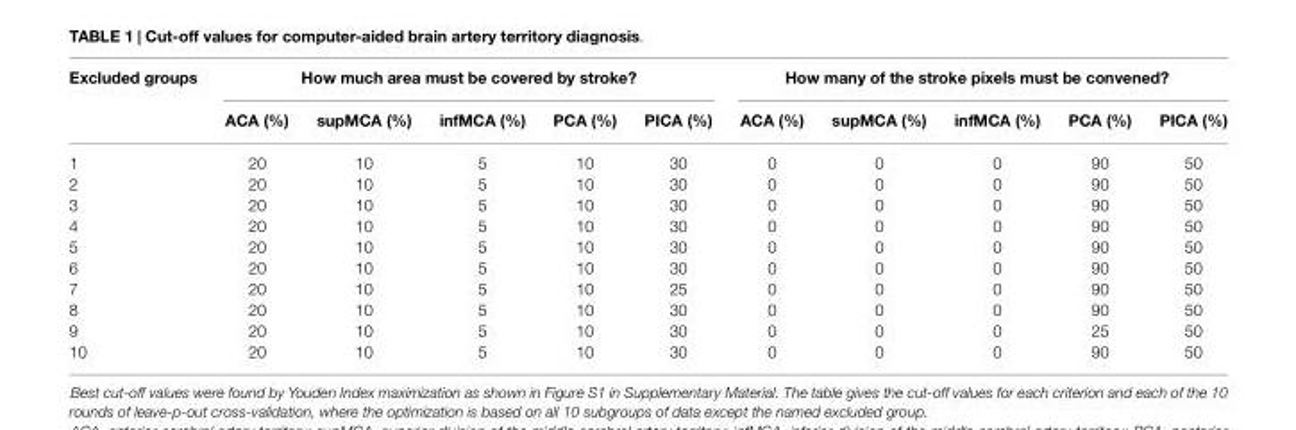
<table><thead><tr><td rowspan="2">Excluded groups</td><td colspan="5">How much area must be covered by stroke?</td><td colspan="5">How many of the stroke pixels must be convened?</td></tr><tr><td>ACA (%)</td><td>supMCA (%)</td><td>infMCA (%)</td><td>PCA (%)</td><td>PICA (%)</td><td>ACA (%)</td><td>supMCA (%)</td><td>infMCA (%)</td><td>PCA (%)</td><td>PICA (%)</td></tr></thead><tbody><tr><td>1</td><td>20</td><td>10</td><td>5</td><td>10</td><td>30</td><td>0</td><td>0</td><td>0</td><td>90</td><td>50</td></tr><tr><td>2</td><td>20</td><td>10</td><td>5</td><td>10</td><td>30</td><td>0</td><td>0</td><td>0</td><td>90</td><td>50</td></tr><tr><td>3</td><td>20</td><td>10</td><td>5</td><td>10</td><td>30</td><td>0</td><td>0</td><td>0</td><td>90</td><td>50</td></tr><tr><td>4</td><td>20</td><td>10</td><td>5</td><td>10</td><td>30</td><td>0</td><td>0</td><td>0</td><td>90</td><td>50</td></tr><tr><td>5</td><td>20</td><td>10</td><td>5</td><td>10</td><td>30</td><td>0</td><td>0</td><td>0</td><td>90</td><td>50</td></tr><tr><td>6</td><td>20</td><td>10</td><td>5</td><td>10</td><td>30</td><td>0</td><td>0</td><td>0</td><td>90</td><td>50</td></tr><tr><td>7</td><td>20</td><td>10</td><td>5</td><td>10</td><td>25</td><td>0</td><td>0</td><td>0</td><td>90</td><td>50</td></tr><tr><td>8</td><td>20</td><td>10</td><td>5</td><td>10</td><td>30</td><td>0</td><td>0</td><td>0</td><td>90</td><td>50</td></tr><tr><td>9</td><td>20</td><td>10</td><td>5</td><td>10</td><td>30</td><td>0</td><td>0</td><td>0</td><td>25</td><td>50</td></tr><tr><td>10</td><td>20</td><td>10</td><td>5</td><td>10</td><td>30</td><td>0</td><td>0</td><td>0</td><td>90</td><td>50</td></tr></tbody></table>